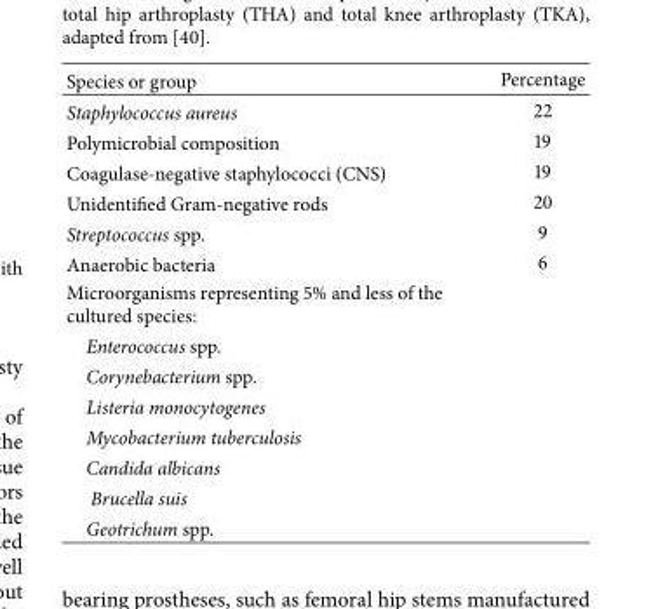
<table><thead><tr><td>Species or group</td><td>Percentage</td></tr></thead><tbody><tr><td>Staphylococcus aureus</td><td>22</td></tr><tr><td>Polymicrobial composition</td><td>19</td></tr><tr><td>Coagulase-negative staphylococci (CNS)</td><td>19</td></tr><tr><td>Unidentified Gram-negative rods</td><td>20</td></tr><tr><td>Streptococcus spp.</td><td>9</td></tr><tr><td>Anaerobic bacteria</td><td>6</td></tr><tr><td colspan="2">Microorganisms representing 5% and less of the cultured species:</td></tr><tr><td colspan="2">Enterococcus spp.</td></tr><tr><td colspan="2">Corynebacterium spp.</td></tr><tr><td colspan="2">Listeria monocytogenes</td></tr><tr><td colspan="2">Mycobacterium tuberculosis</td></tr><tr><td colspan="2">Candida albicans</td></tr><tr><td colspan="2">Brucella suis</td></tr><tr><td>Geotrichum spp.</td><td></td></tr></tbody></table>